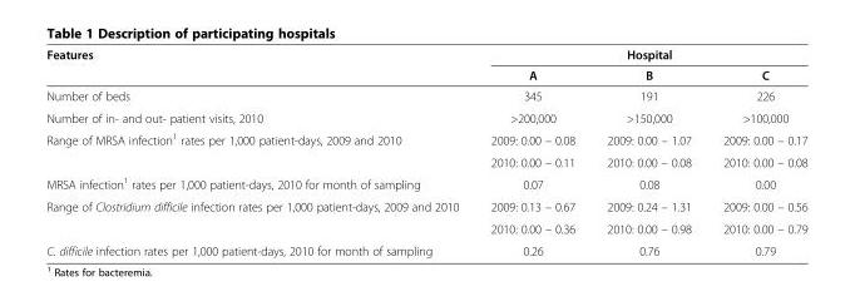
<table><thead><tr><td rowspan="2">Features</td><td colspan="3">Hospital</td></tr><tr><td>A</td><td>B</td><td>C</td></tr></thead><tbody><tr><td>Number of beds</td><td>345</td><td>191</td><td>226</td></tr><tr><td>Number of in- and out- patient visits, 2010</td><td>&gt;200,000</td><td>&gt;150,000</td><td>&gt;100,000</td></tr><tr><td rowspan="2">Range of MRSA infection<sup>1</sup> rates per 1,000 patient-days, 2009 and 2010</td><td>2009: 0.00 – 0.08</td><td>2009: 0.00 – 1.07</td><td>2009: 0.00 – 0.17</td></tr><tr><td>2010: 0.00 – 0.11</td><td>2010: 0.00 – 0.08</td><td>2010: 0.00 – 0.08</td></tr><tr><td>MRSA infection<sup>1</sup> rates per 1,000 patient-days, 2010 for month of sampling</td><td>0.07</td><td>0.08</td><td>0.00</td></tr><tr><td rowspan="2">Range of Clostridium difficile infection rates per 1,000 patient-days, 2009 and 2010</td><td>2009: 0.13 – 0.67</td><td>2009: 0.24 – 1.31</td><td>2009: 0.00 – 0.56</td></tr><tr><td>2010: 0.00 – 0.36</td><td>2010: 0.00 – 0.98</td><td>2010: 0.00 – 0.79</td></tr><tr><td>C. difficile infection rates per 1,000 patient-days, 2010 for month of sampling</td><td>0.26</td><td>0.76</td><td>0.79</td></tr></tbody></table>